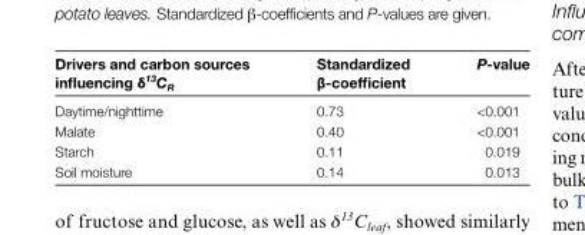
<table><thead><tr><td>Drivers and carbon sources influencing δ<sup>13</sup>C<sub>R</sub></td><td>Standardized β-coefficient</td><td>P-value</td></tr></thead><tbody><tr><td>Daytime/nighttime</td><td>0.73</td><td>&lt;0.001</td></tr><tr><td>Malate</td><td>0.40</td><td>&lt;0.001</td></tr><tr><td>Starch</td><td>0.11</td><td>0.019</td></tr><tr><td>Soil moisture</td><td>0.14</td><td>0.013</td></tr></tbody></table>